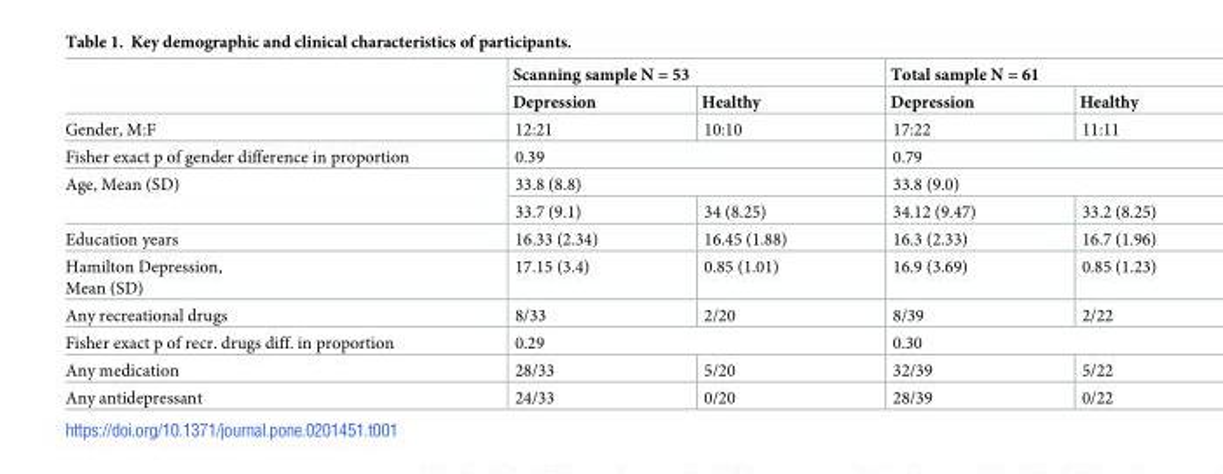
<table><thead><tr><td rowspan="2"></td><td colspan="2">Scanning sample N = 53</td><td colspan="2">Total sample N = 61</td></tr><tr><td>Depression</td><td>Healthy</td><td>Depression</td><td>Healthy</td></tr></thead><tbody><tr><td>Gender, M:F</td><td>12:21</td><td>10:10</td><td>17:22</td><td>11:11</td></tr><tr><td>Fisher exact p of gender difference in proportion</td><td colspan="2">0.39</td><td colspan="2">0.79</td></tr><tr><td rowspan="2">Age, Mean (SD)</td><td colspan="2">33.8 (8.8)</td><td colspan="2">33.8 (9.0)</td></tr><tr><td>33.7 (9.1)</td><td>34 (8.25)</td><td>34.12 (9.47)</td><td>33.2 (8.25)</td></tr><tr><td>Education years</td><td>16.33 (2.34)</td><td>16.45 (1.88)</td><td>16.3 (2.33)</td><td>16.7 (1.96)</td></tr><tr><td>Hamilton Depression, Mean (SD)</td><td>17.15 (3.4)</td><td>0.85 (1.01)</td><td>16.9 (3.69)</td><td>0.85 (1.23)</td></tr><tr><td>Any recreational drugs</td><td>8/33</td><td>2/20</td><td>8/39</td><td>2/22</td></tr><tr><td>Fisher exact p of recr. drugs diff. in proportion</td><td colspan="2">0.29</td><td colspan="2">0.30</td></tr><tr><td>Any medication</td><td>28/33</td><td>5/20</td><td>32/39</td><td>5/22</td></tr><tr><td>Any antidepressant</td><td>24/33</td><td>0/20</td><td>28/39</td><td>0/22</td></tr></tbody></table>